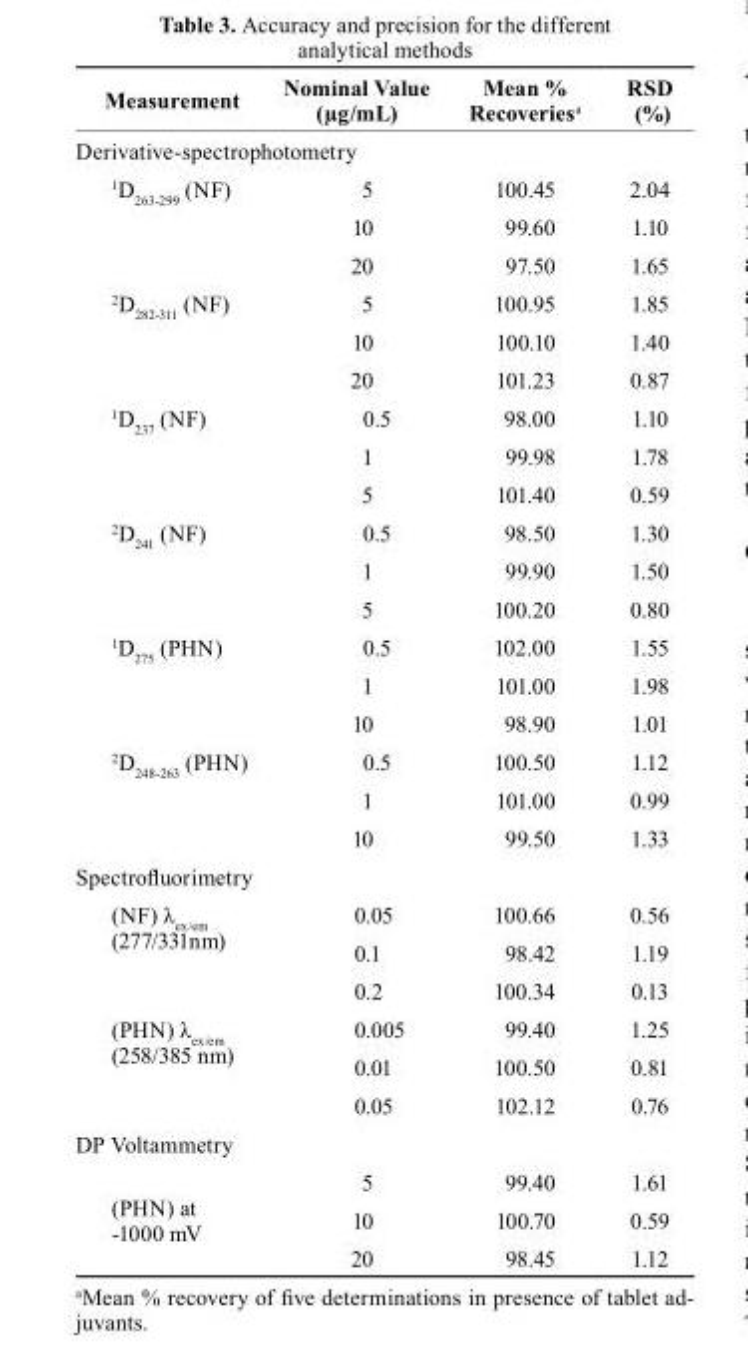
<table><thead><tr><td>Measurement</td><td>Nominal Value (µg/mL)</td><td>Mean % recoveriesa</td><td>rsD (%)</td></tr></thead><tbody><tr><td colspan="4">Derivative-spectrophotometry</td></tr><tr><td rowspan="3"><sup>1</sup>D<sub>263-299</sub> (NF)</td><td>5</td><td>100.45</td><td>2.04</td></tr><tr><td>10</td><td>99.60</td><td>1.10</td></tr><tr><td>20</td><td>97.50</td><td>1.65</td></tr><tr><td rowspan="3"><sup>2</sup>D<sub>282-311</sub> (NF)</td><td>5</td><td>100.95</td><td>1.85</td></tr><tr><td>10</td><td>100.10</td><td>1.40</td></tr><tr><td>20</td><td>101.23</td><td>0.87</td></tr><tr><td rowspan="3"><sup>1</sup>D<sub>237</sub> (NF)</td><td>0.5</td><td>98.00</td><td>1.10</td></tr><tr><td>1</td><td>99.98</td><td>1.78</td></tr><tr><td>5</td><td>101.40</td><td>0.59</td></tr><tr><td rowspan="3"><sup>2</sup>D<sub>241</sub> (NF)</td><td>0.5</td><td>98.50</td><td>1.30</td></tr><tr><td>1</td><td>99.90</td><td>1.50</td></tr><tr><td>5</td><td>100.20</td><td>0.80</td></tr><tr><td rowspan="3"><sup>1</sup>D<sub>275</sub> (PHN)</td><td>0.5</td><td>102.00</td><td>1.55</td></tr><tr><td>1</td><td>101.00</td><td>1.98</td></tr><tr><td>10</td><td>98.90</td><td>1.01</td></tr><tr><td rowspan="3"><sup>2</sup>D<sub>248-263</sub> (PHN)</td><td>0.5</td><td>100.50</td><td>1.12</td></tr><tr><td>1</td><td>101.00</td><td>0.99</td></tr><tr><td>10</td><td>99.50</td><td>1.33</td></tr><tr><td colspan="4">Spectrofluorimetry</td></tr><tr><td rowspan="3">(NF) λ<sub>ex/em</sub> (277/331nm)</td><td>0.05</td><td>100.66</td><td>0.56</td></tr><tr><td>0.1</td><td>98.42</td><td>1.19</td></tr><tr><td>0.2</td><td>100.34</td><td>0.13</td></tr><tr><td rowspan="3">(PHN) λ<sub>ex/em</sub> (258/385 nm)</td><td>0.005</td><td>99.40</td><td>1.25</td></tr><tr><td>0.01</td><td>100.50</td><td>0.81</td></tr><tr><td>0.05</td><td>102.12</td><td>0.76</td></tr><tr><td colspan="4">DP Voltammetry</td></tr><tr><td rowspan="3">(PHN) at -1000 mV</td><td>5</td><td>99.40</td><td>1.61</td></tr><tr><td>10</td><td>100.70</td><td>0.59</td></tr><tr><td>20</td><td>98.45</td><td>1.12</td></tr></tbody></table>